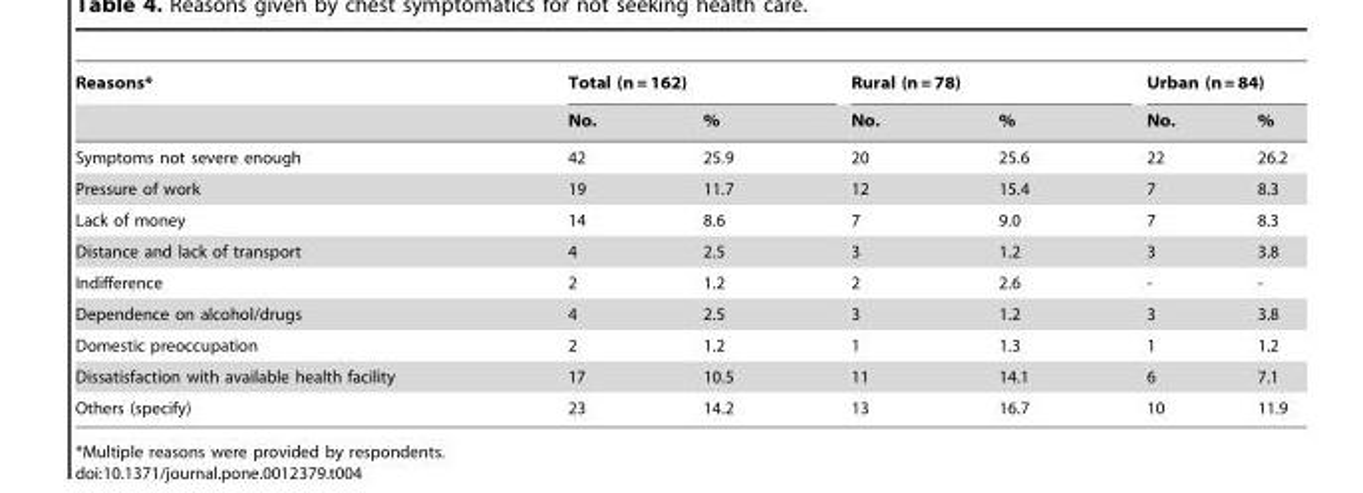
<table><thead><tr><td rowspan="2">Reasons*</td><td colspan="2">Total (n = 162)</td><td colspan="2">Rural (n = 78)</td><td colspan="2">Urban (n = 84)</td></tr><tr><td>No.</td><td>%</td><td>No.</td><td>%</td><td>No.</td><td>%</td></tr></thead><tbody><tr><td>Symptoms not severe enough</td><td>42</td><td>25.9</td><td>20</td><td>25.6</td><td>22</td><td>26.2</td></tr><tr><td>Pressure of work</td><td>19</td><td>11.7</td><td>12</td><td>15.4</td><td>7</td><td>8.3</td></tr><tr><td>Lack of money</td><td>14</td><td>8.6</td><td>7</td><td>9.0</td><td>7</td><td>8.3</td></tr><tr><td>Distance and lack of transport</td><td>4</td><td>2.5</td><td>3</td><td>1.2</td><td>3</td><td>3.8</td></tr><tr><td>Indifference</td><td>2</td><td>1.2</td><td>2</td><td>2.6</td><td>-</td><td>-</td></tr><tr><td>Dependence on alcohol/drugs</td><td>4</td><td>2.5</td><td>3</td><td>1.2</td><td>3</td><td>3.8</td></tr><tr><td>Domestic preoccupation</td><td>2</td><td>1.2</td><td>1</td><td>1.3</td><td>1</td><td>1.2</td></tr><tr><td>Dissatisfaction with available health facility</td><td>17</td><td>10.5</td><td>11</td><td>14.1</td><td>6</td><td>7.1</td></tr><tr><td>Others (specify)</td><td>23</td><td>14.2</td><td>13</td><td>16.7</td><td>10</td><td>11.9</td></tr></tbody></table>